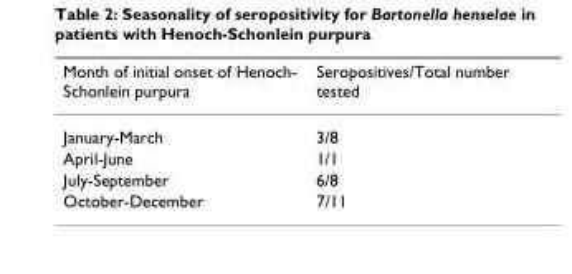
<table><thead><tr><td>Month of initial onset of Henoch- Schonlein purpura</td><td>Seropositives/Total number tested</td></tr></thead><tbody><tr><td>January-March</td><td>3/8</td></tr><tr><td>April-June</td><td>1/1</td></tr><tr><td>July-September</td><td>6/8</td></tr><tr><td>October-December</td><td>7/11</td></tr></tbody></table>